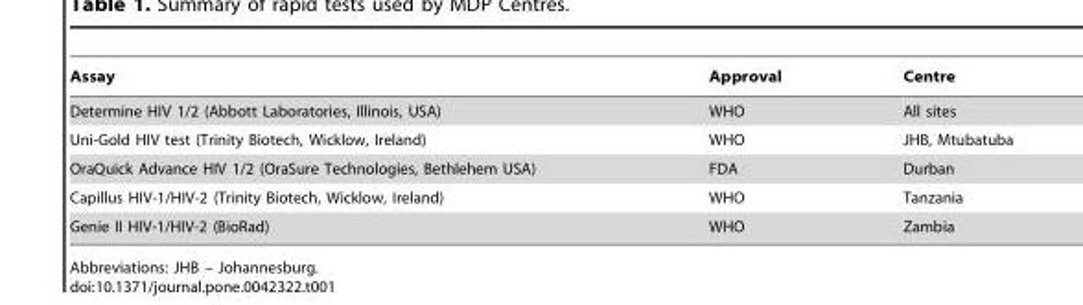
<table><thead><tr><td>Assay</td><td>Approval</td><td>Centre</td></tr></thead><tbody><tr><td>Determine HIV 1/2 (Abbott Laboratories, Illinois, USA)</td><td>WHO</td><td>All sites</td></tr><tr><td>Uni-Gold HIV test (Trinity Biotech, Wicklow, Ireland)</td><td>WHO</td><td>JHB, Mtubatuba</td></tr><tr><td>OraQuick Advance HIV 1/2 (OraSure Technologies, Bethlehem USA)</td><td>FDA</td><td>Durban</td></tr><tr><td>Capillus HIV-1/HIV-2 (Trinity Biotech, Wicklow, Ireland)</td><td>WHO</td><td>Tanzania</td></tr><tr><td>Genie II HIV-1/HIV-2 (BioRad)</td><td>WHO</td><td>Zambia</td></tr></tbody></table>